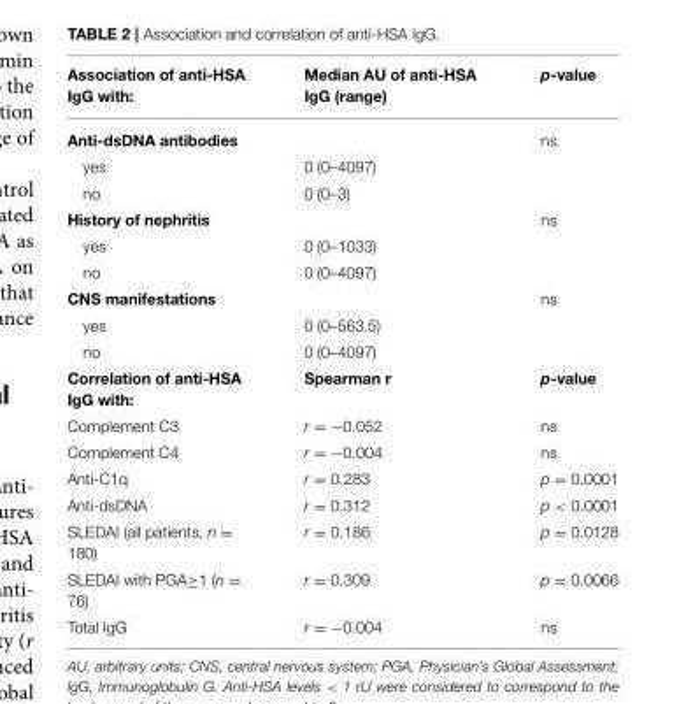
<table><thead><tr><td>Association of anti-HSA IgG with:</td><td>Median AU of anti-HSA IgG (range)</td><td>p-value</td></tr></thead><tbody><tr><td>Anti-dsDNA antibodies</td><td></td><td>ns</td></tr><tr><td>yes</td><td>0 (0–4097)</td><td></td></tr><tr><td>no</td><td>0 (0–3)</td><td></td></tr><tr><td>History of nephritis</td><td></td><td>ns</td></tr><tr><td>yes</td><td>0 (0–1033)</td><td></td></tr><tr><td>no</td><td>0 (0–4097)</td><td></td></tr><tr><td>CNS manifestations</td><td></td><td>ns</td></tr><tr><td>yes</td><td>0 (0–563.5)</td><td></td></tr><tr><td>no</td><td>0 (0–4097)</td><td></td></tr><tr><td>Correlation of anti-HSA IgG with:</td><td>Spearman r</td><td>p-value</td></tr><tr><td>Complement C3</td><td>r = −0.052</td><td>ns</td></tr><tr><td>Complement C4</td><td>r = −0.004</td><td>ns</td></tr><tr><td>Anti-C1q</td><td>r = 0.283</td><td>p = 0.0001</td></tr><tr><td>Anti-dsDNA</td><td>r = 0.312</td><td>p &lt; 0.0001</td></tr><tr><td>SLEDAI (all patients, n = 180)</td><td>r = 0.186</td><td>p = 0.0128</td></tr><tr><td>SLEDAI with PGA≥1 (n = 76)</td><td>r = 0.309</td><td>p = 0.0066</td></tr><tr><td>Total IgG</td><td>r = −0.004</td><td>ns</td></tr></tbody></table>